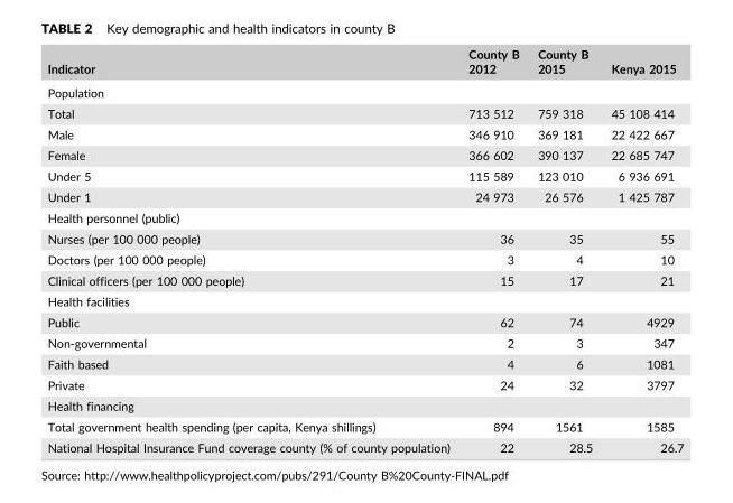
<table><thead><tr><td>Indicator</td><td>County B 2012</td><td>County B 2015</td><td>Kenya 2015</td></tr></thead><tbody><tr><td colspan="4">Population</td></tr><tr><td>Total</td><td>713 512</td><td>759 318</td><td>45 108 414</td></tr><tr><td>Male</td><td>346 910</td><td>369 181</td><td>22 422 667</td></tr><tr><td>Female</td><td>366 602</td><td>390 137</td><td>22 685 747</td></tr><tr><td>Under 5</td><td>115 589</td><td>123 010</td><td>6 936 691</td></tr><tr><td>Under 1</td><td>24 973</td><td>26 576</td><td>1 425 787</td></tr><tr><td colspan="4">Health personnel (public)</td></tr><tr><td>Nurses (per 100 000 people)</td><td>36</td><td>35</td><td>55</td></tr><tr><td>Doctors (per 100 000 people)</td><td>3</td><td>4</td><td>10</td></tr><tr><td>Clinical officers (per 100 000 people)</td><td>15</td><td>17</td><td>21</td></tr><tr><td colspan="4">Health facilities</td></tr><tr><td>Public</td><td>62</td><td>74</td><td>4929</td></tr><tr><td>Non‐governmental</td><td>2</td><td>3</td><td>347</td></tr><tr><td>Faith based</td><td>4</td><td>6</td><td>1081</td></tr><tr><td>Private</td><td>24</td><td>32</td><td>3797</td></tr><tr><td colspan="4">Health financing</td></tr><tr><td>Total government health spending (per capita, Kenya shillings)</td><td>894</td><td>1561</td><td>1585</td></tr><tr><td>National Hospital Insurance Fund coverage county (% of county population)</td><td>22</td><td>28.5</td><td>26.7</td></tr></tbody></table>